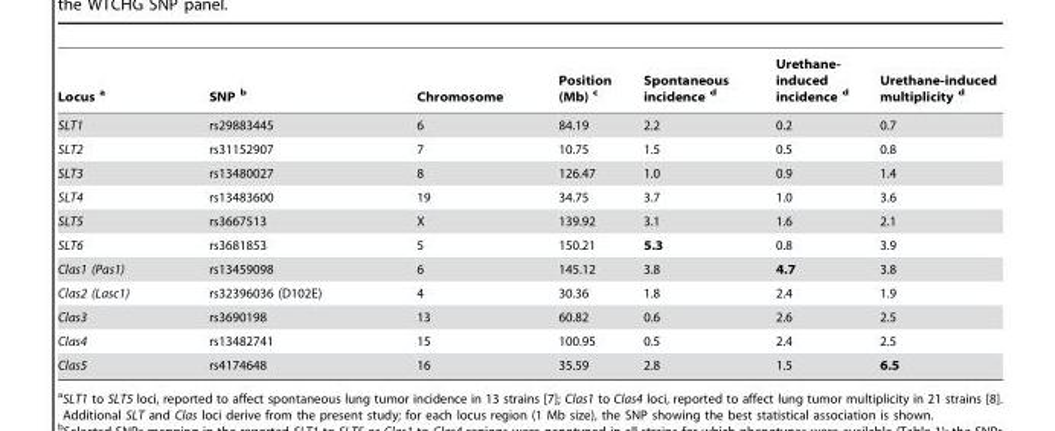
<table><thead><tr><td>Locus a</td><td>SNP b</td><td>Chromosome</td><td>Position (Mb) c</td><td>Spontaneous incidence d</td><td>Urethane- induced incidence d</td><td>Urethane-induced multiplicity d</td></tr></thead><tbody><tr><td>SLT1</td><td>rs29883445</td><td>6</td><td>84.19</td><td>2.2</td><td>0.2</td><td>0.7</td></tr><tr><td>SLT2</td><td>rs31152907</td><td>7</td><td>10.75</td><td>1.5</td><td>0.5</td><td>0.8</td></tr><tr><td>SLT3</td><td>rs13480027</td><td>8</td><td>126.47</td><td>1.0</td><td>0.9</td><td>1.4</td></tr><tr><td>SLT4</td><td>rs13483600</td><td>19</td><td>34.75</td><td>3.7</td><td>1.0</td><td>3.6</td></tr><tr><td>SLT5</td><td>rs3667513</td><td>X</td><td>139.92</td><td>3.1</td><td>1.6</td><td>2.1</td></tr><tr><td>SLT6</td><td>rs3681853</td><td>5</td><td>150.21</td><td>5.3</td><td>0.8</td><td>3.9</td></tr><tr><td>Clas1 (Pas1)</td><td>rs13459098</td><td>6</td><td>145.12</td><td>3.8</td><td>4.7</td><td>3.8</td></tr><tr><td>Clas2 (Lasc1)</td><td>rs32396036 (D102E)</td><td>4</td><td>30.36</td><td>1.8</td><td>2.4</td><td>1.9</td></tr><tr><td>Clas3</td><td>rs3690198</td><td>13</td><td>60.82</td><td>0.6</td><td>2.6</td><td>2.5</td></tr><tr><td>Clas4</td><td>rs13482741</td><td>15</td><td>100.95</td><td>0.5</td><td>2.4</td><td>2.5</td></tr><tr><td>Clas5</td><td>rs4174648</td><td>16</td><td>35.59</td><td>2.8</td><td>1.5</td><td>6.5</td></tr></tbody></table>